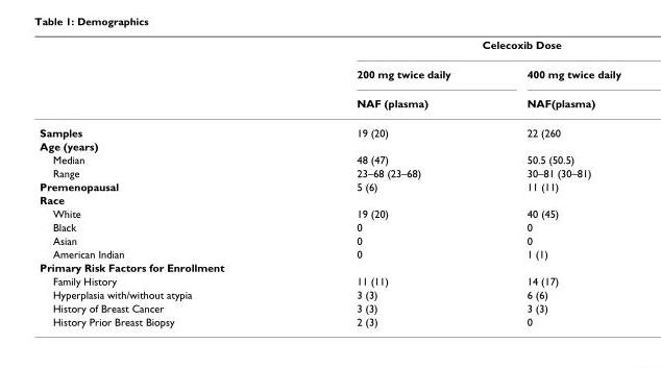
<table><thead><tr><td rowspan="3"></td><td colspan="2">Celecoxib Dose</td></tr><tr><td rowspan="2">200 mg twice daily NAF (plasma)</td><td rowspan="2">400 mg twice daily NAF(plasma)</td></tr><tr></tr></thead><tbody><tr><td>Samples</td><td>19 (20)</td><td>22 (260</td></tr><tr><td colspan="3">Age (years)</td></tr><tr><td>Median</td><td>48 (47)</td><td>50.5 (50.5)</td></tr><tr><td>Range</td><td>23–68 (23–68)</td><td>30–81 (30–81)</td></tr><tr><td>Premenopausal</td><td>5 (6)</td><td>11 (11)</td></tr><tr><td colspan="3">Race</td></tr><tr><td>White</td><td>19 (20)</td><td>40 (45)</td></tr><tr><td>Black</td><td>0</td><td>0</td></tr><tr><td>Asian</td><td>0</td><td>0</td></tr><tr><td>American Indian</td><td>0</td><td>1 (1)</td></tr><tr><td colspan="3">Primary Risk Factors for Enrollment</td></tr><tr><td>Family History</td><td>11 (11)</td><td>14 (17)</td></tr><tr><td>Hyperplasia with/without atypia</td><td>3 (3)</td><td>6 (6)</td></tr><tr><td>History of Breast Cancer</td><td>3 (3)</td><td>3 (3)</td></tr><tr><td>History Prior Breast Biopsy</td><td>2 (3)</td><td>0</td></tr></tbody></table>